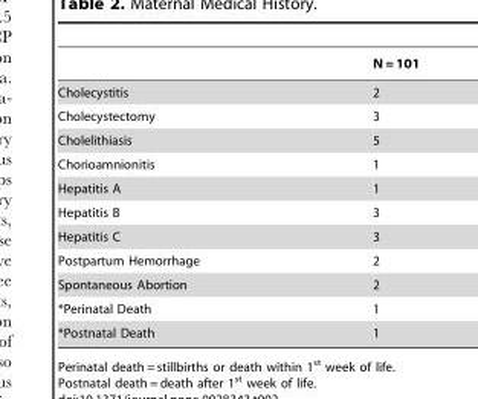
<table><thead><tr><td></td><td>N = 101</td></tr></thead><tbody><tr><td>Cholecystitis</td><td>2</td></tr><tr><td>Cholecystectomy</td><td>3</td></tr><tr><td>Cholelithiasis</td><td>5</td></tr><tr><td>Chorioamnionitis</td><td>1</td></tr><tr><td>Hepatitis A</td><td>1</td></tr><tr><td>Hepatitis B</td><td>3</td></tr><tr><td>Hepatitis C</td><td>3</td></tr><tr><td>Postpartum Hemorrhage</td><td>2</td></tr><tr><td>Spontaneous Abortion</td><td>2</td></tr><tr><td>*Perinatal Death</td><td>1</td></tr><tr><td>*Postnatal Death</td><td>1</td></tr></tbody></table>